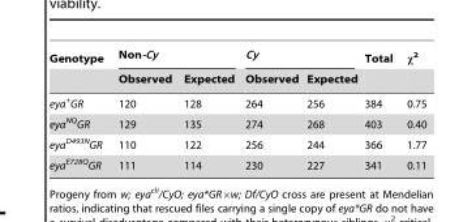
<table><thead><tr><td rowspan="2">Genotype</td><td colspan="2">Non-Cy</td><td colspan="2">Cy</td><td rowspan="2">Total</td><td rowspan="2">χ<sup>2</sup></td></tr><tr><td>Observed</td><td>Expected</td><td>Observed</td><td>Expected</td></tr></thead><tbody><tr><td>eya<sup>+</sup>GR</td><td>120</td><td>128</td><td>264</td><td>256</td><td>384</td><td>0.75</td></tr><tr><td>eya<sup>NQ</sup>GR</td><td>129</td><td>135</td><td>274</td><td>268</td><td>403</td><td>0.40</td></tr><tr><td>eya<sup>D493N</sup>GR</td><td>110</td><td>122</td><td>256</td><td>244</td><td>366</td><td>1.77</td></tr><tr><td>eya<sup>E728Q</sup>GR</td><td>111</td><td>114</td><td>230</td><td>227</td><td>341</td><td>0.11</td></tr></tbody></table>